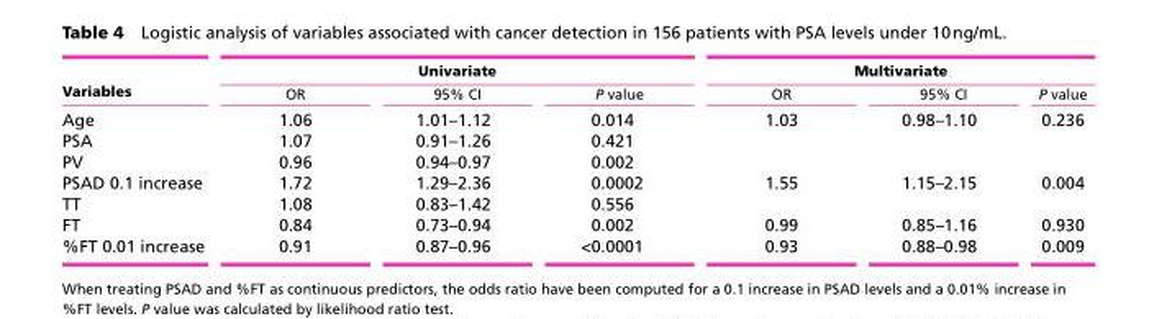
<table><thead><tr><td rowspan="2">Variables</td><td colspan="3">Univariate</td><td colspan="3">Multivariate</td></tr><tr><td>OR</td><td>95% CI</td><td>P value</td><td>OR</td><td>95% CI</td><td>P value</td></tr></thead><tbody><tr><td>Age</td><td>1.06</td><td>1.01–1.12</td><td>0.014</td><td>1.03</td><td>0.98–1.10</td><td>0.236</td></tr><tr><td>PSA</td><td>1.07</td><td>0.91–1.26</td><td>0.421</td><td></td><td></td><td></td></tr><tr><td>PV</td><td>0.96</td><td>0.94–0.97</td><td>0.002</td><td></td><td></td><td></td></tr><tr><td>PSAD 0.1 increase</td><td>1.72</td><td>1.29–2.36</td><td>0.0002</td><td>1.55</td><td>1.15–2.15</td><td>0.004</td></tr><tr><td>TT</td><td>1.08</td><td>0.83–1.42</td><td>0.556</td><td></td><td></td><td></td></tr><tr><td>FT</td><td>0.84</td><td>0.73–0.94</td><td>0.002</td><td>0.99</td><td>0.85–1.16</td><td>0.930</td></tr><tr><td>%FT 0.01 increase</td><td>0.91</td><td>0.87–0.96</td><td>&lt;0.0001</td><td>0.93</td><td>0.88–0.98</td><td>0.009</td></tr></tbody></table>